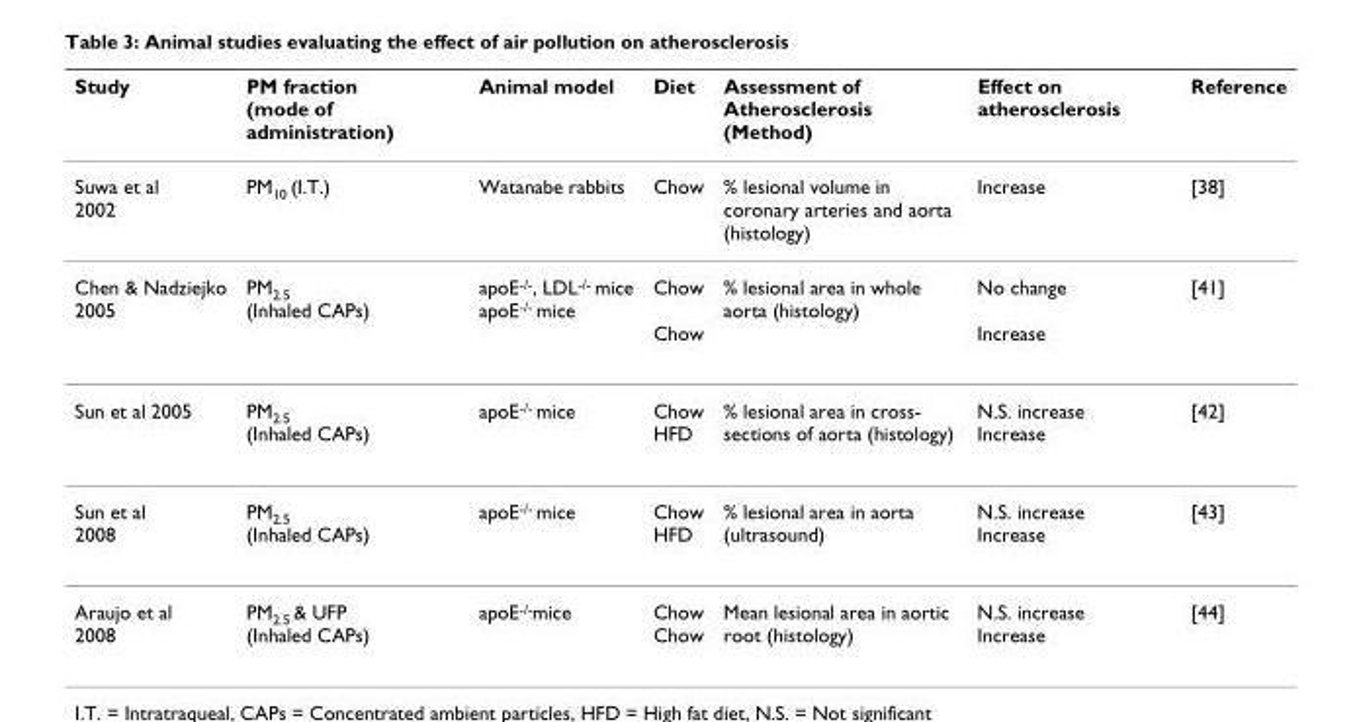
<table><thead><tr><td>Study</td><td>PM fraction (mode of administration)</td><td>Animal model</td><td>Diet</td><td>Assessment of Atherosclerosis (Method)</td><td>Effect on atherosclerosis</td><td>Reference</td></tr></thead><tbody><tr><td>Suwa et al 2002</td><td>PM<sub>10</sub> (I.T.)</td><td>Watanabe rabbits</td><td>Chow</td><td>% lesional volume in coronary arteries and aorta (histology)</td><td>Increase</td><td>[38]</td></tr><tr><td>Chen &amp; Nadziejko 2005</td><td>PM<sub>2.5</sub> (Inhaled CAPs)</td><td>apoE<sup>-/-</sup>, LDL<sup>-/-</sup> mice apoE<sup>-/-</sup> mice</td><td>Chow Chow</td><td>% lesional area in whole aorta (histology)</td><td>No change Increase</td><td>[41]</td></tr><tr><td>Sun et al 2005</td><td>PM<sub>2.5</sub> (Inhaled CAPs)</td><td>apoE<sup>-/-</sup> mice</td><td>Chow HFD</td><td>% lesional area in cross- sections of aorta (histology)</td><td>N.S. increase Increase</td><td>[42]</td></tr><tr><td>Sun et al 2008</td><td>PM<sub>2.5</sub> (Inhaled CAPs)</td><td>apoE<sup>-/-</sup> mice</td><td>Chow HFD</td><td>% lesional area in aorta (ultrasound)</td><td>N.S. increase Increase</td><td>[43]</td></tr><tr><td>Araujo et al 2008</td><td>PM<sub>2.5</sub> &amp; UFP (Inhaled CAPs)</td><td>apoE<sup>-/-</sup>mice</td><td>Chow Chow</td><td>Mean lesional area in aortic root (histology)</td><td>N.S. increase Increase</td><td>[44]</td></tr></tbody></table>